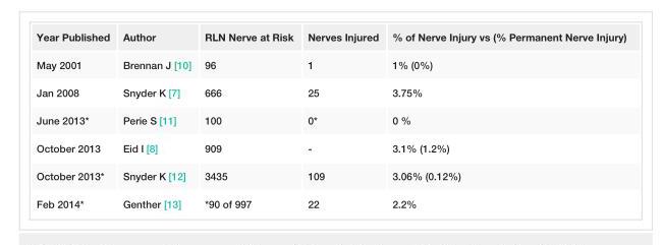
<table><tbody><tr><td>Year Published</td><td>Author</td><td>RLN Nerve at Risk</td><td>Nerves Injured</td><td>% of Nerve Injury vs (% Permanent Nerve Injury)</td></tr><tr><td>May 2001</td><td>Brennan J [10]</td><td>96</td><td>1</td><td>1% (0%)</td></tr><tr><td>Jan 2008</td><td>Snyder K [7]</td><td>666</td><td>25</td><td>3.75%</td></tr><tr><td>June 2013*</td><td>Perie S [11]</td><td>100</td><td>0*</td><td>0 %</td></tr><tr><td>October 2013</td><td>Eid I [8]</td><td>909</td><td>-</td><td>3.1% (1.2%)</td></tr><tr><td>October 2013*</td><td>Snyder K [12]</td><td>3435</td><td>109</td><td>3.06% (0.12%)</td></tr><tr><td>Feb 2014*</td><td>Genther [13]</td><td>*90 of 997</td><td>22</td><td>2.2%</td></tr></tbody></table>